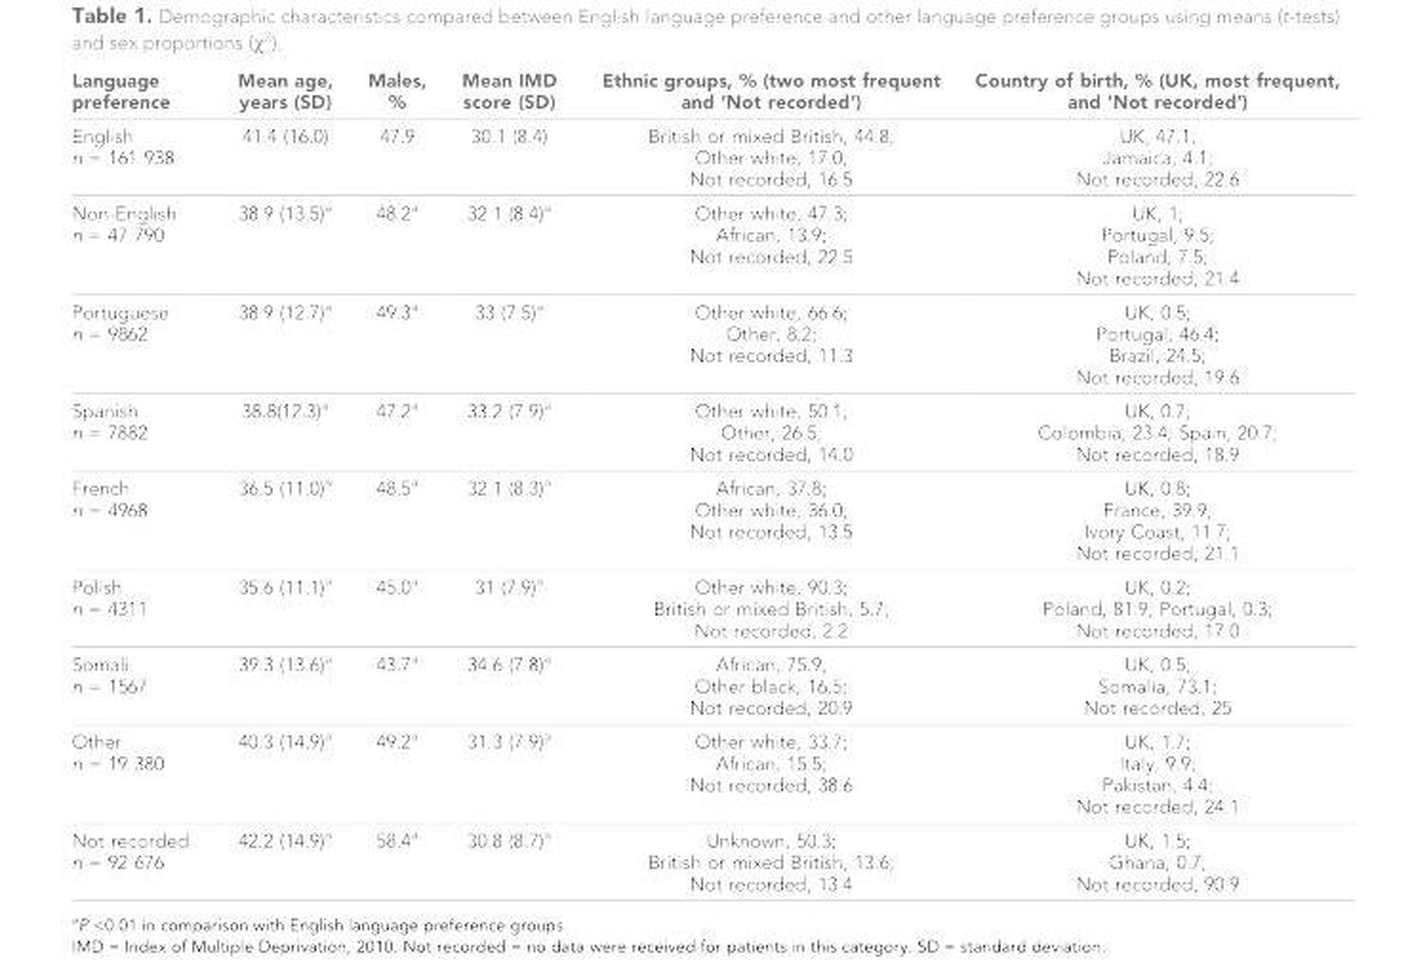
<table><thead><tr><td>Language preference</td><td>Mean age, years (SD)</td><td>Males, %</td><td>Mean IMD score (SD)</td><td>Ethnic groups, % (two most frequent and ‘Not recorded’)</td><td>Country of birth, % (UK, most frequent, and ‘Not recorded’)</td></tr></thead><tbody><tr><td>English n = 161 938</td><td>41.4 (16.0)</td><td>47.9</td><td>30.1 (8.4)</td><td>British or mixed British, 44.8; Other white, 17.0; Not recorded, 16.5</td><td>UK, 47.1; Jamaica, 4.1; Not recorded, 22.6</td></tr><tr><td>Non-English n = 47 790</td><td>38.9 (13.5)<sup>a</sup></td><td>48.2<sup>a</sup></td><td>32.1 (8.4)<sup>a</sup></td><td>Other white, 47.3; African, 13.9; Not recorded, 22.5</td><td>UK, 1; Portugal, 9.5; Poland, 7.5; Not recorded, 21.4</td></tr><tr><td>Portuguese n = 9862</td><td>38.9 (12.7)<sup>a</sup></td><td>49.3<sup>a</sup></td><td>33 (7.5)<sup>a</sup></td><td>Other white, 66.6; Other, 8.2; Not recorded, 11.3</td><td>UK, 0.5; Portugal, 46.4; Brazil, 24.5; Not recorded, 19.6</td></tr><tr><td>Spanish n = 7882</td><td>38.8(12.3)<sup>a</sup></td><td>47.2<sup>a</sup></td><td>33.2 (7.9)<sup>a</sup></td><td>Other white, 50.1; Other, 26.5; Not recorded, 14.0</td><td>UK, 0.7; Colombia, 23.4; Spain, 20.7; Not recorded, 18.9</td></tr><tr><td>French n = 4968</td><td>36.5 (11.0)<sup>a</sup></td><td>48.5<sup>a</sup></td><td>32.1 (8.3)<sup>a</sup></td><td>African, 37.8; Other white, 36.0; Not recorded, 13.5</td><td>UK, 0.8; France, 39.9; Ivory Coast, 11.7; Not recorded, 21.1</td></tr><tr><td>Polish n = 4311</td><td>35.6 (11.1)<sup>a</sup></td><td>45.0<sup>a</sup></td><td>31 (7.9)<sup>a</sup></td><td>Other white, 90.3; British or mixed British, 5.7; Not recorded, 2.2</td><td>UK, 0.2; Poland, 81.9; Portugal, 0.3; Not recorded, 17.0</td></tr><tr><td>Somali n = 1567</td><td>39.3 (13.6)<sup>a</sup></td><td>43.7<sup>a</sup></td><td>34.6 (7.8)<sup>a</sup></td><td>African, 75.9; Other black, 16.5; Not recorded, 20.9</td><td>UK, 0.5; Somalia, 73.1; Not recorded, 25</td></tr><tr><td>Other n = 19 380</td><td>40.3 (14.9)<sup>a</sup></td><td>49.2<sup>a</sup></td><td>31.3 (7.9)<sup>a</sup></td><td>Other white, 33.7; African, 15.5; Not recorded, 38.6</td><td>UK, 1.7; Italy, 9.9; Pakistan, 4.4; Not recorded, 24.1</td></tr><tr><td>Not recorded n = 92 676</td><td>42.2 (14.9)<sup>a</sup></td><td>58.4<sup>a</sup></td><td>30.8 (8.7)<sup>a</sup></td><td>Unknown, 50.3; British or mixed British, 13.6; Not recorded, 13.4</td><td>UK, 1.5; Ghana, 0.7; Not recorded, 90.9</td></tr></tbody></table>